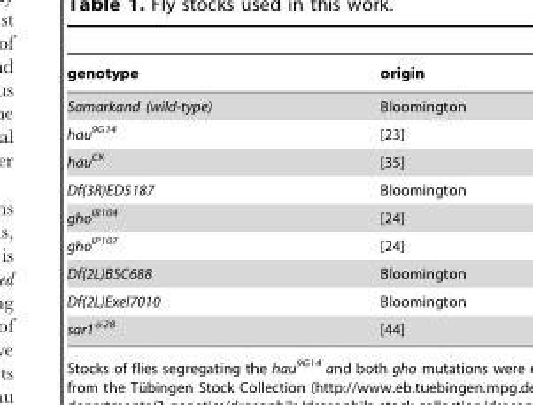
<table><thead><tr><td>genotype</td><td>origin</td></tr></thead><tbody><tr><td>Samarkand (wild-type)</td><td>Bloomington</td></tr><tr><td>hau<sup>9G14</sup></td><td>[23]</td></tr><tr><td>hau<sup>CK</sup></td><td>[35]</td></tr><tr><td>Df(3R)ED5187</td><td>Bloomington</td></tr><tr><td>gho<sup>IB104</sup></td><td>[24]</td></tr><tr><td>gho<sup>IP107</sup></td><td>[24]</td></tr><tr><td>Df(2L)BSC688</td><td>Bloomington</td></tr><tr><td>Df(2L)Exel7010</td><td>Bloomington</td></tr><tr><td>sar1<sup>#28</sup></td><td>[44]</td></tr></tbody></table>